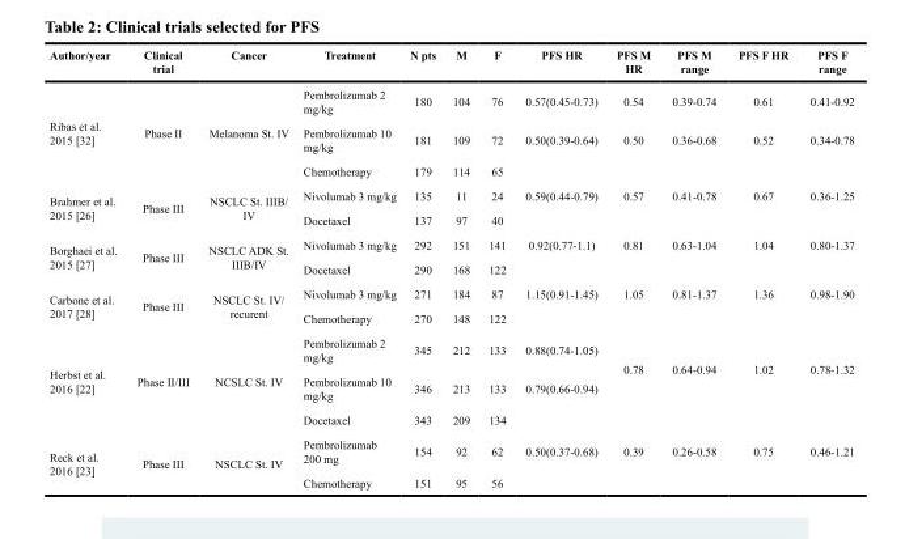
<table><thead><tr><td>Author/year</td><td>Clinical trial</td><td>Cancer</td><td>Treatment</td><td>N pts</td><td>M</td><td>F</td><td>PFS HR</td><td>PFS M HR</td><td>PFS M range</td><td>PFS F HR</td><td>PFS F range</td></tr></thead><tbody><tr><td rowspan="3">Ribas et al. 2015 [32]</td><td rowspan="3">Phase II</td><td rowspan="3">Melanoma St. IV</td><td>Pembrolizumab 2 mg/kg</td><td>180</td><td>104</td><td>76</td><td>0.57(0.45-0.73)</td><td>0.54</td><td>0.39-0.74</td><td>0.61</td><td>0.41-0.92</td></tr><tr><td>Pembrolizumab 10 mg/kg</td><td>181</td><td>109</td><td>72</td><td>0.50(0.39-0.64)</td><td>0.50</td><td>0.36-0.68</td><td>0.52</td><td>0.34-0.78</td></tr><tr><td>Chemotherapy</td><td>179</td><td>114</td><td>65</td><td></td><td></td><td></td><td></td><td></td></tr><tr><td rowspan="2">Brahmer et al. 2015 [26]</td><td rowspan="2">Phase III</td><td rowspan="2">NSCLC St. IIIB/ IV</td><td>Nivolumab 3 mg/kg</td><td>135</td><td>11</td><td>24</td><td>0.59(0.44-0.79)</td><td>0.57</td><td>0.41-0.78</td><td>0.67</td><td>0.36-1.25</td></tr><tr><td>Docetaxel</td><td>137</td><td>97</td><td>40</td><td></td><td></td><td></td><td></td><td></td></tr><tr><td rowspan="2">Borghaei et al. 2015 [27]</td><td rowspan="2">Phase III</td><td rowspan="2">NSCLC ADK St. IIIB/IV</td><td>Nivolumab 3 mg/kg</td><td>292</td><td>151</td><td>141</td><td>0.92(0.77-1.1)</td><td>0.81</td><td>0.63-1.04</td><td>1.04</td><td>0.80-1.37</td></tr><tr><td>Docetaxel</td><td>290</td><td>168</td><td>122</td><td></td><td></td><td></td><td></td><td></td></tr><tr><td rowspan="2">Carbone et al. 2017 [28]</td><td rowspan="2">Phase III</td><td rowspan="2">NSCLC St. IV/ recurent</td><td>Nivolumab 3 mg/kg</td><td>271</td><td>184</td><td>87</td><td>1.15(0.91-1.45)</td><td>1.05</td><td>0.81-1.37</td><td>1.36</td><td>0.98-1.90</td></tr><tr><td>Chemotherapy</td><td>270</td><td>148</td><td>122</td><td></td><td></td><td></td><td></td><td></td></tr><tr><td rowspan="3">Herbst et al. 2016 [22]</td><td rowspan="3">Phase II/III</td><td rowspan="3">NCSLC St. IV</td><td>Pembrolizumab 2 mg/kg</td><td>345</td><td>212</td><td>133</td><td>0.88(0.74-1.05)</td><td rowspan="2">0.78</td><td rowspan="2">0.64-0.94</td><td rowspan="2">1.02</td><td rowspan="2">0.78-1.32</td></tr><tr><td>Pembrolizumab 10 mg/kg</td><td>346</td><td>213</td><td>133</td><td>0.79(0.66-0.94)</td></tr><tr><td>Docetaxel</td><td>343</td><td>209</td><td>134</td><td></td><td></td><td></td><td></td><td></td></tr><tr><td rowspan="2">Reck et al. 2016 [23]</td><td rowspan="2">Phase III</td><td rowspan="2">NSCLC St. IV</td><td>Pembrolizumab 200 mg</td><td>154</td><td>92</td><td>62</td><td>0.50(0.37-0.68)</td><td>0.39</td><td>0.26-0.58</td><td>0.75</td><td>0.46-1.21</td></tr><tr><td>Chemotherapy</td><td>151</td><td>95</td><td>56</td><td></td><td></td><td></td><td></td><td></td></tr></tbody></table>